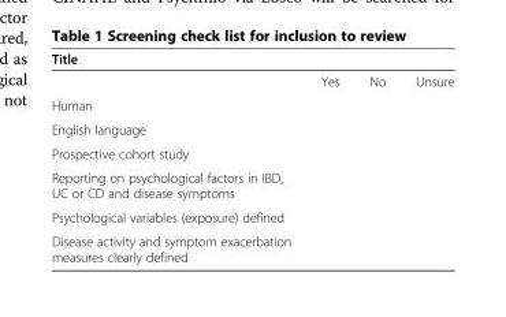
<table><thead><tr><td>Title</td><td></td><td></td><td></td></tr></thead><tbody><tr><td></td><td>Yes</td><td>No</td><td>Unsure</td></tr><tr><td colspan="4">Human</td></tr><tr><td colspan="4">English language</td></tr><tr><td colspan="4">Prospective cohort study</td></tr><tr><td colspan="4">Reporting on psychological factors in IBD, UC or CD and disease symptoms</td></tr><tr><td colspan="4">Psychological variables (exposure) defined</td></tr><tr><td>Disease activity and symptom exacerbation measures clearly defined</td><td></td><td></td><td></td></tr></tbody></table>